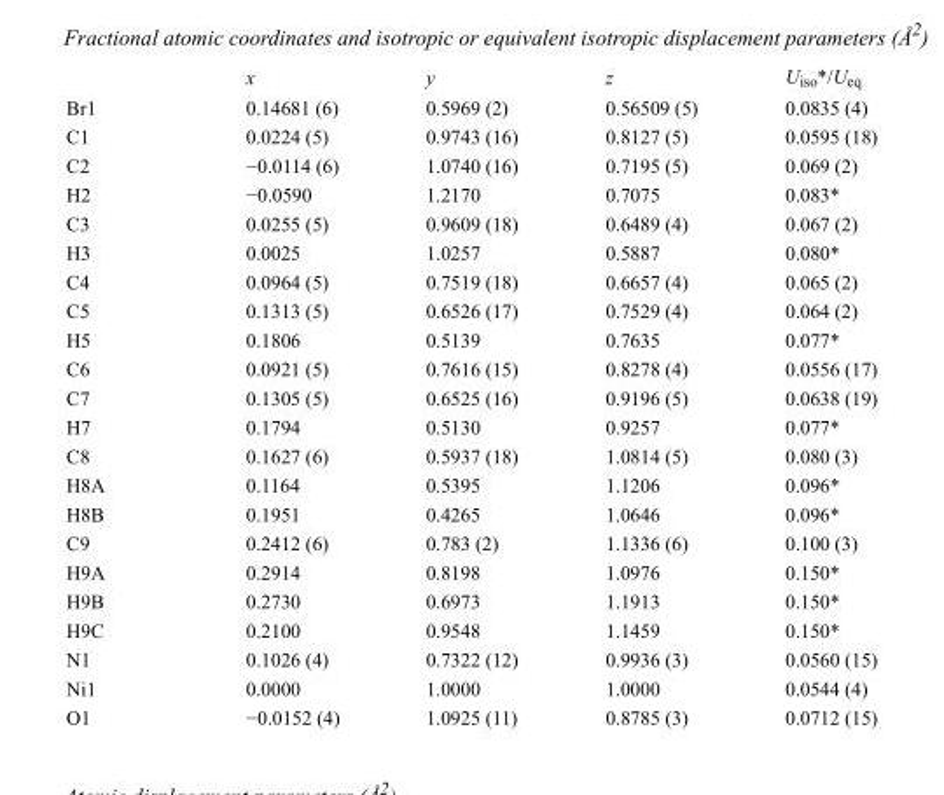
<table><thead><tr><td></td><td>x</td><td>y</td><td>z</td><td>U<sub>iso</sub>*/U<sub>eq</sub></td></tr></thead><tbody><tr><td>Br1</td><td>0.14681 (6)</td><td>0.5969 (2)</td><td>0.56509 (5)</td><td>0.0835 (4)</td></tr><tr><td>C1</td><td>0.0224 (5)</td><td>0.9743 (16)</td><td>0.8127 (5)</td><td>0.0595 (18)</td></tr><tr><td>C2</td><td>−0.0114 (6)</td><td>1.0740 (16)</td><td>0.7195 (5)</td><td>0.069 (2)</td></tr><tr><td>H2</td><td>−0.0590</td><td>1.2170</td><td>0.7075</td><td>0.083*</td></tr><tr><td>C3</td><td>0.0255 (5)</td><td>0.9609 (18)</td><td>0.6489 (4)</td><td>0.067 (2)</td></tr><tr><td>H3</td><td>0.0025</td><td>1.0257</td><td>0.5887</td><td>0.080*</td></tr><tr><td>C4</td><td>0.0964 (5)</td><td>0.7519 (18)</td><td>0.6657 (4)</td><td>0.065 (2)</td></tr><tr><td>C5</td><td>0.1313 (5)</td><td>0.6526 (17)</td><td>0.7529 (4)</td><td>0.064 (2)</td></tr><tr><td>H5</td><td>0.1806</td><td>0.5139</td><td>0.7635</td><td>0.077*</td></tr><tr><td>C6</td><td>0.0921 (5)</td><td>0.7616 (15)</td><td>0.8278 (4)</td><td>0.0556 (17)</td></tr><tr><td>C7</td><td>0.1305 (5)</td><td>0.6525 (16)</td><td>0.9196 (5)</td><td>0.0638 (19)</td></tr><tr><td>H7</td><td>0.1794</td><td>0.5130</td><td>0.9257</td><td>0.077*</td></tr><tr><td>C8</td><td>0.1627 (6)</td><td>0.5937 (18)</td><td>1.0814 (5)</td><td>0.080 (3)</td></tr><tr><td>H8A</td><td>0.1164</td><td>0.5395</td><td>1.1206</td><td>0.096*</td></tr><tr><td>H8B</td><td>0.1951</td><td>0.4265</td><td>1.0646</td><td>0.096*</td></tr><tr><td>C9</td><td>0.2412 (6)</td><td>0.783 (2)</td><td>1.1336 (6)</td><td>0.100 (3)</td></tr><tr><td>H9A</td><td>0.2914</td><td>0.8198</td><td>1.0976</td><td>0.150*</td></tr><tr><td>H9B</td><td>0.2730</td><td>0.6973</td><td>1.1913</td><td>0.150*</td></tr><tr><td>H9C</td><td>0.2100</td><td>0.9548</td><td>1.1459</td><td>0.150*</td></tr><tr><td>N1</td><td>0.1026 (4)</td><td>0.7322 (12)</td><td>0.9936 (3)</td><td>0.0560 (15)</td></tr><tr><td>Ni1</td><td>0.0000</td><td>1.0000</td><td>1.0000</td><td>0.0544 (4)</td></tr><tr><td>O1</td><td>−0.0152 (4)</td><td>1.0925 (11)</td><td>0.8785 (3)</td><td>0.0712 (15)</td></tr></tbody></table>